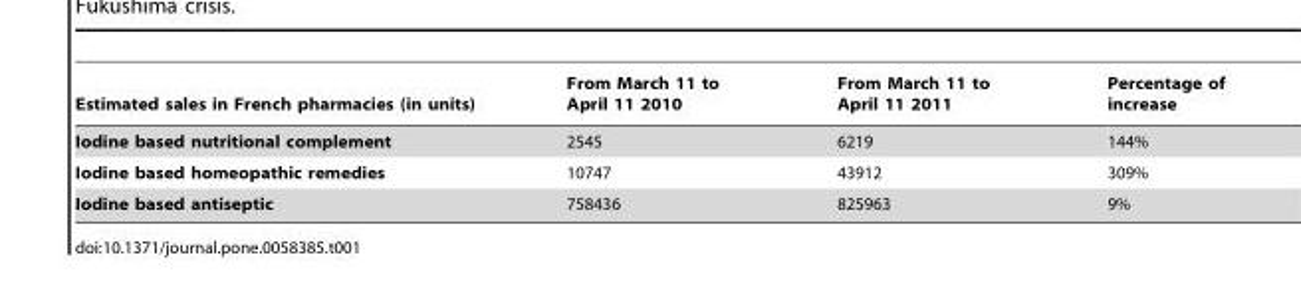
<table><thead><tr><td>Estimated sales in French pharmacies (in units)</td><td>From March 11 to April 11 2010</td><td>From March 11 to April 11 2011</td><td>Percentage of increase</td></tr></thead><tbody><tr><td>Iodine based nutritional complement</td><td>2545</td><td>6219</td><td>144%</td></tr><tr><td>Iodine based homeopathic remedies</td><td>10747</td><td>43912</td><td>309%</td></tr><tr><td>Iodine based antiseptic</td><td>758436</td><td>825963</td><td>9%</td></tr></tbody></table>